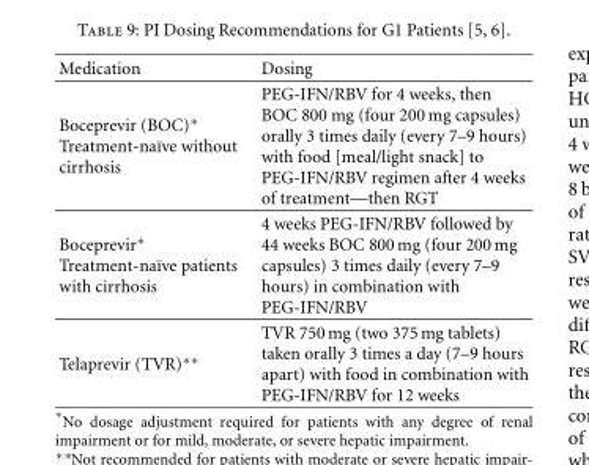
<table><thead><tr><td>Medication</td><td>Dosing</td></tr></thead><tbody><tr><td>Boceprevir (BOC)∗ Treatment-na¨ıve without cirrhosis</td><td>PEG-IFN/RBV for 4 weeks, then BOC 800 mg (four 200 mg capsules) orally 3 times daily (every 7–9 hours) with food [meal/light snack] to PEG-IFN/RBV regimen after 4 weeks of treatment—then RGT</td></tr><tr><td>Boceprevir∗ Treatment-na¨ıve patients with cirrhosis</td><td>4 weeks PEG-IFN/RBV followed by 44 weeks BOC 800 mg (four 200 mg capsules) 3 times daily (every 7–9 hours) in combination with PEG-IFN/RBV</td></tr><tr><td>Telaprevir (TVR)∗∗</td><td>TVR 750 mg (two 375 mg tablets) taken orally 3 times a day (7–9 hours apart) with food in combination with PEG-IFN/RBV for 12 weeks</td></tr></tbody></table>